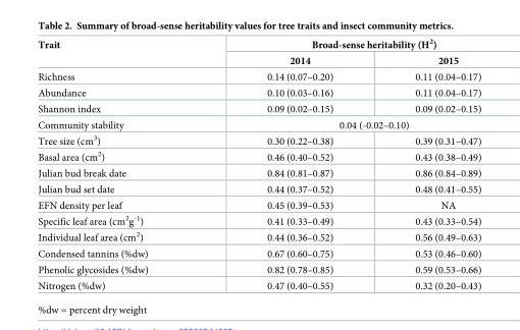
<table><thead><tr><td rowspan="2">Trait</td><td colspan="2">Broad-sense heritability (H<sup>2</sup>)</td></tr><tr><td>2014</td><td>2015</td></tr></thead><tbody><tr><td>Richness</td><td>0.14 (0.07–0.20)</td><td>0.11 (0.04–0.17)</td></tr><tr><td>Abundance</td><td>0.10 (0.03–0.16)</td><td>0.11 (0.04–0.17)</td></tr><tr><td>Shannon index</td><td>0.09 (0.02–0.15)</td><td>0.09 (0.02–0.15)</td></tr><tr><td>Community stability</td><td colspan="2">0.04 (-0.02–0.10)</td></tr><tr><td>Tree size (cm<sup>3</sup>)</td><td>0.30 (0.22–0.38)</td><td>0.39 (0.31–0.47)</td></tr><tr><td>Basal area (cm<sup>2</sup>)</td><td>0.46 (0.40–0.52)</td><td>0.43 (0.38–0.49)</td></tr><tr><td>Julian bud break date</td><td>0.84 (0.81–0.87)</td><td>0.86 (0.84–0.89)</td></tr><tr><td>Julian bud set date</td><td>0.44 (0.37–0.52)</td><td>0.48 (0.41–0.55)</td></tr><tr><td>EFN density per leaf</td><td>0.45 (0.39–0.53)</td><td>NA</td></tr><tr><td>Specific leaf area (cm<sup>2</sup>g<sup>-1</sup>)</td><td>0.41 (0.33–0.49)</td><td>0.43 (0.33–0.54)</td></tr><tr><td>Individual leaf area (cm<sup>2</sup>)</td><td>0.44 (0.36–0.52)</td><td>0.56 (0.49–0.63)</td></tr><tr><td>Condensed tannins (%dw)</td><td>0.67 (0.60–0.75)</td><td>0.53 (0.46–0.60)</td></tr><tr><td>Phenolic glycosides (%dw)</td><td>0.82 (0.78–0.85)</td><td>0.59 (0.53–0.66)</td></tr><tr><td>Nitrogen (%dw)</td><td>0.47 (0.40–0.55)</td><td>0.32 (0.20–0.43)</td></tr></tbody></table>